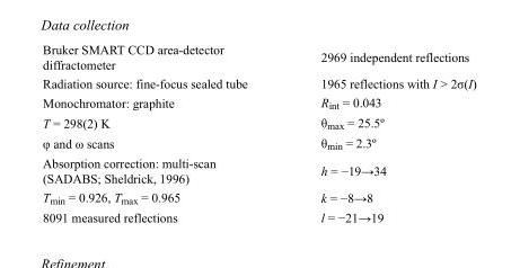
<table><tbody><tr><td>Bruker SMART CCD area-detector diffractometer</td><td>2969 independent reflections</td></tr><tr><td>Radiation source: fine-focus sealed tube</td><td>1965 reflections with I &gt; 2σ(I)</td></tr><tr><td>Monochromator: graphite</td><td>R<sub>int</sub> = 0.043</td></tr><tr><td>T = 298(2) K</td><td>θ<sub>max</sub> = 25.5º</td></tr><tr><td>φ and ω scans</td><td>θ<sub>min</sub> = 2.3º</td></tr><tr><td>Absorption correction: multi-scan (SADABS; Sheldrick, 1996)</td><td>h = −19→34</td></tr><tr><td>T<sub>min</sub> = 0.926, T<sub>max</sub> = 0.965</td><td>k = −8→8</td></tr><tr><td>8091 measured reflections</td><td>l = −21→19</td></tr></tbody></table>